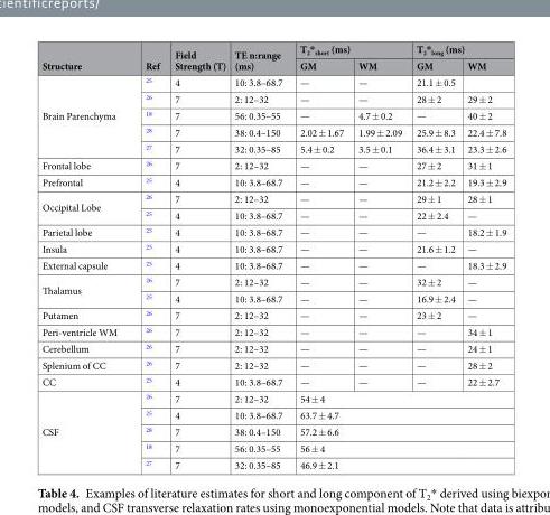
<table><thead><tr><td rowspan="2">Structure</td><td rowspan="2">Ref</td><td rowspan="2">Field Strength (T)</td><td rowspan="2">TE n:range (ms)</td><td colspan="2">T<sub>2</sub>*<sub>short</sub> (ms)</td><td colspan="2">T<sub>2</sub>*<sub>long</sub> (ms)</td></tr><tr><td>GM</td><td>WM</td><td>GM</td><td>WM</td></tr></thead><tbody><tr><td rowspan="5">Brain Parenchyma</td><td><sup>25</sup></td><td>4</td><td>10: 3.8–68.7</td><td>—</td><td>—</td><td>21.1 ± 0.5</td><td></td></tr><tr><td><sup>26</sup></td><td>7</td><td>2: 12–32</td><td>—</td><td>—</td><td>28 ± 2</td><td>29 ± 2</td></tr><tr><td><sup>18</sup></td><td>7</td><td>56: 0.35–55</td><td>—</td><td>4.7 ± 0.2</td><td>—</td><td>40 ± 2</td></tr><tr><td><sup>28</sup></td><td>7</td><td>38: 0.4–150</td><td>2.02 ± 1.67</td><td>1.99 ± 2.09</td><td>25.9 ± 8.3</td><td>22.4 ± 7.8</td></tr><tr><td><sup>27</sup></td><td>7</td><td>32: 0.35–85</td><td>5.4 ± 0.2</td><td>3.5 ± 0.1</td><td>36.4 ± 3.1</td><td>23.3 ± 2.6</td></tr><tr><td>Frontal lobe</td><td><sup>26</sup></td><td>7</td><td>2: 12–32</td><td>—</td><td>—</td><td>27 ± 2</td><td>31 ± 1</td></tr><tr><td>Prefrontal</td><td><sup>25</sup></td><td>4</td><td>10: 3.8–68.7</td><td>—</td><td>—</td><td>21.2 ± 2.2</td><td>19.3 ± 2.9</td></tr><tr><td rowspan="2">Occipital Lobe</td><td><sup>26</sup></td><td>7</td><td>2: 12–32</td><td>—</td><td>—</td><td>29 ± 1</td><td>28 ± 1</td></tr><tr><td><sup>25</sup></td><td>4</td><td>10: 3.8–68.7</td><td>—</td><td>—</td><td>22 ± 2.4</td><td>—</td></tr><tr><td>Parietal lobe</td><td><sup>25</sup></td><td>4</td><td>10: 3.8–68.7</td><td>—</td><td>—</td><td>—</td><td>18.2 ± 1.9</td></tr><tr><td>Insula</td><td><sup>25</sup></td><td>4</td><td>10: 3.8–68.7</td><td>—</td><td>—</td><td>21.6 ± 1.2</td><td>—</td></tr><tr><td>External capsule</td><td><sup>25</sup></td><td>4</td><td>10: 3.8–68.7</td><td>—</td><td>—</td><td>—</td><td>18.3 ± 2.9</td></tr><tr><td rowspan="2">Thalamus</td><td><sup>26</sup></td><td>7</td><td>2: 12–32</td><td>—</td><td>—</td><td>32 ± 2</td><td>—</td></tr><tr><td><sup>25</sup></td><td>4</td><td>10: 3.8–68.7</td><td>—</td><td>—</td><td>16.9 ± 2.4</td><td>—</td></tr><tr><td>Putamen</td><td><sup>26</sup></td><td>7</td><td>2: 12–32</td><td>—</td><td>—</td><td>23 ± 2</td><td>—</td></tr><tr><td>Peri-ventricle WM</td><td><sup>26</sup></td><td>7</td><td>2: 12–32</td><td>—</td><td>—</td><td>—</td><td>34 ± 1</td></tr><tr><td>Cerebellum</td><td><sup>26</sup></td><td>7</td><td>2: 12–32</td><td>—</td><td>—</td><td>—</td><td>24 ± 1</td></tr><tr><td>Splenium of CC</td><td><sup>26</sup></td><td>7</td><td>2: 12–32</td><td>—</td><td>—</td><td>—</td><td>28 ± 2</td></tr><tr><td>CC</td><td><sup>25</sup></td><td>4</td><td>10: 3.8–68.7</td><td>—</td><td>—</td><td>—</td><td>22 ± 2.7</td></tr><tr><td rowspan="5">CSF</td><td><sup>26</sup></td><td>7</td><td>2: 12–32</td><td colspan="4">54 ± 4</td></tr><tr><td><sup>25</sup></td><td>4</td><td>10: 3.8–68.7</td><td colspan="4">63.7 ± 4.7</td></tr><tr><td><sup>28</sup></td><td>7</td><td>38: 0.4–150</td><td colspan="4">57.2 ± 6.6</td></tr><tr><td><sup>18</sup></td><td>7</td><td>56: 0.35–55</td><td colspan="4">56 ± 4</td></tr><tr><td><sup>27</sup></td><td>7</td><td>32: 0.35–85</td><td colspan="4">46.9 ± 2.1</td></tr></tbody></table>